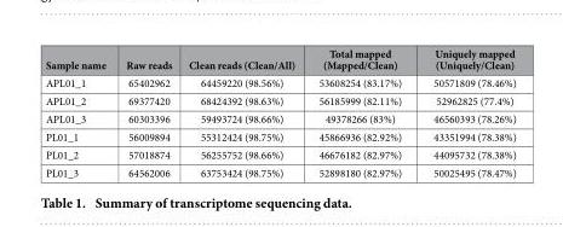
<table><thead><tr><td>Sample name</td><td>Raw reads</td><td>Clean reads (Clean/All)</td><td>Total mapped (Mapped/Clean)</td><td>Uniquely mapped (Uniquely/Clean)</td></tr></thead><tbody><tr><td>APL01_1</td><td>65402962</td><td>64459220 (98.56%)</td><td>53608254 (83.17%)</td><td>50571809 (78.46%)</td></tr><tr><td>APL01_2</td><td>69377420</td><td>68424392 (98.63%)</td><td>56185999 (82.11%)</td><td>52962825 (77.4%)</td></tr><tr><td>APL01_3</td><td>60303396</td><td>59493724 (98.66%)</td><td>49378266 (83%)</td><td>46560393 (78.26%)</td></tr><tr><td>PL01_1</td><td>56009894</td><td>55312424 (98.75%)</td><td>45866936 (82.92%)</td><td>43351994 (78.38%)</td></tr><tr><td>PL01_2</td><td>57018874</td><td>56255752 (98.66%)</td><td>46676182 (82.97%)</td><td>44095732 (78.38%)</td></tr><tr><td>PL01_3</td><td>64562006</td><td>63753424 (98.75%)</td><td>52898180 (82.97%)</td><td>50025495 (78.47%)</td></tr></tbody></table>